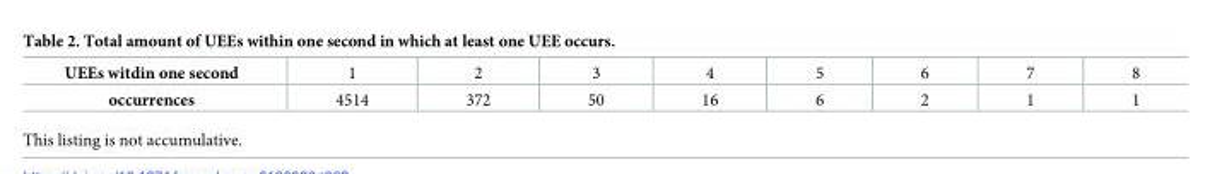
<table><tbody><tr><td>UEEs witdin one second</td><td>1</td><td>2</td><td>3</td><td>4</td><td>5</td><td>6</td><td>7</td><td>8</td></tr><tr><td>occurrences</td><td>4514</td><td>372</td><td>50</td><td>16</td><td>6</td><td>2</td><td>1</td><td>1</td></tr></tbody></table>